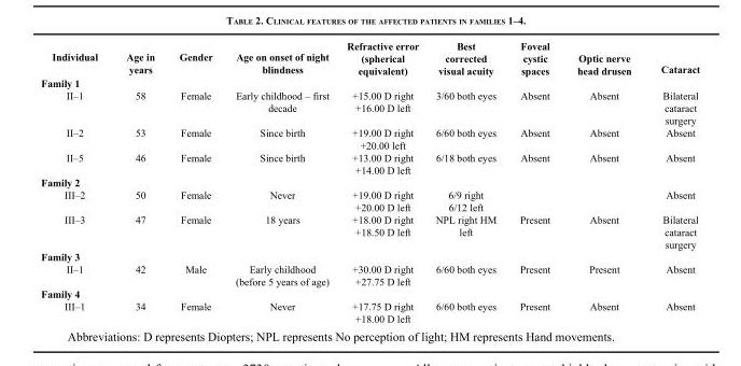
<table><thead><tr><td>Individual</td><td>Age in years</td><td>Gender</td><td>Age on onset of night blindness</td><td>Refractive error (spherical equivalent)</td><td>Best corrected visual acuity</td><td>Foveal cystic spaces</td><td>Optic nerve head drusen</td><td>Cataract</td></tr></thead><tbody><tr><td colspan="9">Family 1</td></tr><tr><td>II–1</td><td>58</td><td>Female</td><td>Early childhood – first decade</td><td>+15.00 D right +16.00 D left</td><td>3/60 both eyes</td><td>Absent</td><td>Absent</td><td>Bilateral cataract surgery</td></tr><tr><td>II–2</td><td>53</td><td>Female</td><td>Since birth</td><td>+19.00 D right +20.00 left</td><td>6/60 both eyes</td><td>Absent</td><td>Absent</td><td>Absent</td></tr><tr><td>II–5</td><td>46</td><td>Female</td><td>Since birth</td><td>+13.00 D right +14.00 D left</td><td>6/18 both eyes</td><td>Absent</td><td>Absent</td><td>Absent</td></tr><tr><td colspan="9">Family 2</td></tr><tr><td>III–2</td><td>50</td><td>Female</td><td>Never</td><td>+19.00 D right +20.00 D left</td><td>6/9 right 6/12 left</td><td></td><td></td><td>Absent</td></tr><tr><td>III–3</td><td>47</td><td>Female</td><td>18 years</td><td>+18.00 D right +18.50 D left</td><td>NPL right HM left</td><td>Present</td><td>Absent</td><td>Bilateral cataract surgery</td></tr><tr><td colspan="9">Family 3</td></tr><tr><td>II–1</td><td>42</td><td>Male</td><td>Early childhood (before 5 years of age)</td><td>+30.00 D right +27.75 D left</td><td>6/60 both eyes</td><td>Present</td><td>Present</td><td>Absent</td></tr><tr><td colspan="9">Family 4</td></tr><tr><td>III–1</td><td>34</td><td>Female</td><td>Never</td><td>+17.75 D right +18.00 D left</td><td>6/60 both eyes</td><td>Present</td><td>Absent</td><td>Absent</td></tr></tbody></table>